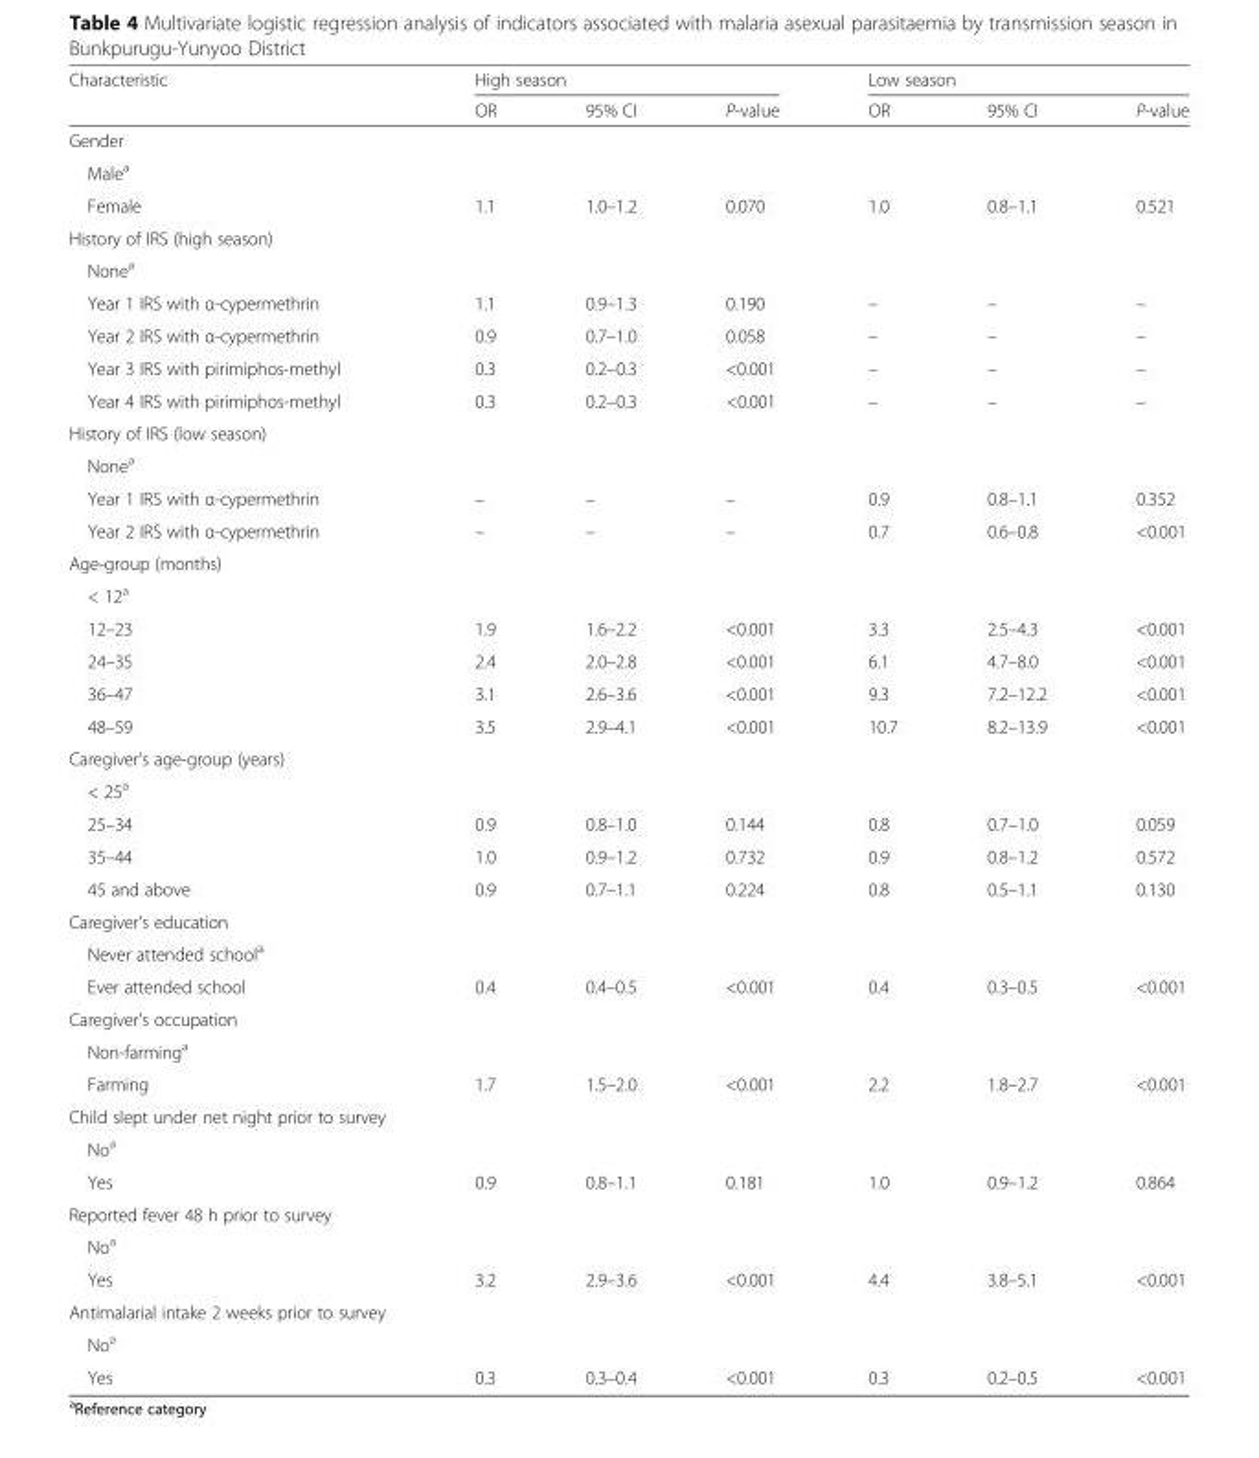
<table><thead><tr><td rowspan="2">Characteristic</td><td colspan="3">High season</td><td colspan="3">Low season</td></tr><tr><td>OR</td><td>95% CI</td><td>P-value</td><td>OR</td><td>95% CI</td><td>P-value</td></tr></thead><tbody><tr><td colspan="7">Gender</td></tr><tr><td colspan="7">Male<sup>a</sup></td></tr><tr><td>Female</td><td>1.1</td><td>1.0–1.2</td><td>0.070</td><td>1.0</td><td>0.8–1.1</td><td>0.521</td></tr><tr><td colspan="7">History of IRS (high season)</td></tr><tr><td colspan="7">None<sup>a</sup></td></tr><tr><td>Year 1 IRS with α-cypermethrin</td><td>1.1</td><td>0.9–1.3</td><td>0.190</td><td>–</td><td>–</td><td>–</td></tr><tr><td>Year 2 IRS with α-cypermethrin</td><td>0.9</td><td>0.7–1.0</td><td>0.058</td><td>–</td><td>–</td><td>–</td></tr><tr><td>Year 3 IRS with pirimiphos-methyl</td><td>0.3</td><td>0.2–0.3</td><td>&lt;0.001</td><td>–</td><td>–</td><td>–</td></tr><tr><td>Year 4 IRS with pirimiphos-methyl</td><td>0.3</td><td>0.2–0.3</td><td>&lt;0.001</td><td>–</td><td>–</td><td>–</td></tr><tr><td colspan="7">History of IRS (low season)</td></tr><tr><td colspan="7">None<sup>a</sup></td></tr><tr><td>Year 1 IRS with α-cypermethrin</td><td>–</td><td>–</td><td>–</td><td>0.9</td><td>0.8–1.1</td><td>0.352</td></tr><tr><td>Year 2 IRS with α-cypermethrin</td><td>–</td><td>–</td><td>–</td><td>0.7</td><td>0.6–0.8</td><td>&lt;0.001</td></tr><tr><td colspan="7">Age-group (months)</td></tr><tr><td colspan="7">&lt; 12<sup>a</sup></td></tr><tr><td>12–23</td><td>1.9</td><td>1.6–2.2</td><td>&lt;0.001</td><td>3.3</td><td>2.5–4.3</td><td>&lt;0.001</td></tr><tr><td>24–35</td><td>2.4</td><td>2.0–2.8</td><td>&lt;0.001</td><td>6.1</td><td>4.7–8.0</td><td>&lt;0.001</td></tr><tr><td>36–47</td><td>3.1</td><td>2.6–3.6</td><td>&lt;0.001</td><td>9.3</td><td>7.2–12.2</td><td>&lt;0.001</td></tr><tr><td>48–59</td><td>3.5</td><td>2.9–4.1</td><td>&lt;0.001</td><td>10.7</td><td>8.2–13.9</td><td>&lt;0.001</td></tr><tr><td colspan="7">Caregiver’s age-group (years)</td></tr><tr><td colspan="7">&lt; 25<sup>a</sup></td></tr><tr><td>25–34</td><td>0.9</td><td>0.8–1.0</td><td>0.144</td><td>0.8</td><td>0.7–1.0</td><td>0.059</td></tr><tr><td>35–44</td><td>1.0</td><td>0.9–1.2</td><td>0.732</td><td>0.9</td><td>0.8–1.2</td><td>0.572</td></tr><tr><td>45 and above</td><td>0.9</td><td>0.7–1.1</td><td>0.224</td><td>0.8</td><td>0.5–1.1</td><td>0.130</td></tr><tr><td colspan="7">Caregiver’s education</td></tr><tr><td colspan="7">Never attended school<sup>a</sup></td></tr><tr><td>Ever attended school</td><td>0.4</td><td>0.4–0.5</td><td>&lt;0.001</td><td>0.4</td><td>0.3–0.5</td><td>&lt;0.001</td></tr><tr><td colspan="7">Caregiver’s occupation</td></tr><tr><td colspan="7">Non-farming<sup>a</sup></td></tr><tr><td>Farming</td><td>1.7</td><td>1.5–2.0</td><td>&lt;0.001</td><td>2.2</td><td>1.8–2.7</td><td>&lt;0.001</td></tr><tr><td colspan="7">Child slept under net night prior to survey</td></tr><tr><td colspan="7">No<sup>a</sup></td></tr><tr><td>Yes</td><td>0.9</td><td>0.8–1.1</td><td>0.181</td><td>1.0</td><td>0.9–1.2</td><td>0.864</td></tr><tr><td colspan="7">Reported fever 48 h prior to survey</td></tr><tr><td colspan="7">No<sup>a</sup></td></tr><tr><td>Yes</td><td>3.2</td><td>2.9–3.6</td><td>&lt;0.001</td><td>4.4</td><td>3.8–5.1</td><td>&lt;0.001</td></tr><tr><td colspan="7">Antimalarial intake 2 weeks prior to survey</td></tr><tr><td colspan="7">No<sup>a</sup></td></tr><tr><td>Yes</td><td>0.3</td><td>0.3–0.4</td><td>&lt;0.001</td><td>0.3</td><td>0.2–0.5</td><td>&lt;0.001</td></tr></tbody></table>